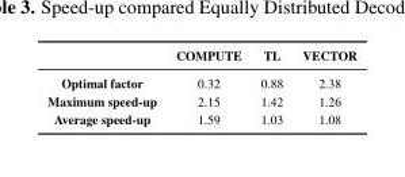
<table><thead><tr><td></td><td>COMPUTE</td><td>TL</td><td>VECTOR</td></tr></thead><tbody><tr><td>Optimal factor</td><td>0.32</td><td>0.88</td><td>2.38</td></tr><tr><td>Maximum speed-up</td><td>2.15</td><td>1.42</td><td>1.26</td></tr><tr><td>Average speed-up</td><td>1.59</td><td>1.03</td><td>1.08</td></tr></tbody></table>